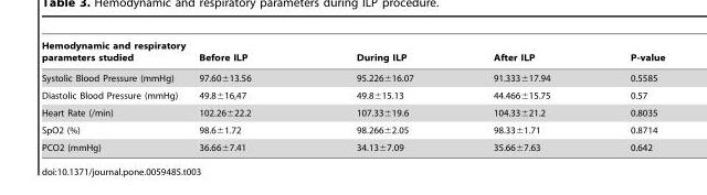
<table><thead><tr><td>Hemodynamic and respiratory parameters studied</td><td>Before ILP</td><td>During ILP</td><td>After ILP</td><td>P-value</td></tr></thead><tbody><tr><td>Systolic Blood Pressure (mmHg)</td><td>97.60±13.56</td><td>95.226±16.07</td><td>91.333±17.94</td><td>0.5585</td></tr><tr><td>Diastolic Blood Pressure (mmHg)</td><td>49.8±16,47</td><td>49.8±15.13</td><td>44.466±15.75</td><td>0.57</td></tr><tr><td>Heart Rate (/min)</td><td>102.26±22.2</td><td>107.33±19.6</td><td>104.33±21.2</td><td>0.8035</td></tr><tr><td>SpO2 (%)</td><td>98.6±1.72</td><td>98.266±2.05</td><td>98.33±1.71</td><td>0.8714</td></tr><tr><td>PCO2 (mmHg)</td><td>36.66±7.41</td><td>34.13±7.09</td><td>35.66±7.63</td><td>0.642</td></tr></tbody></table>